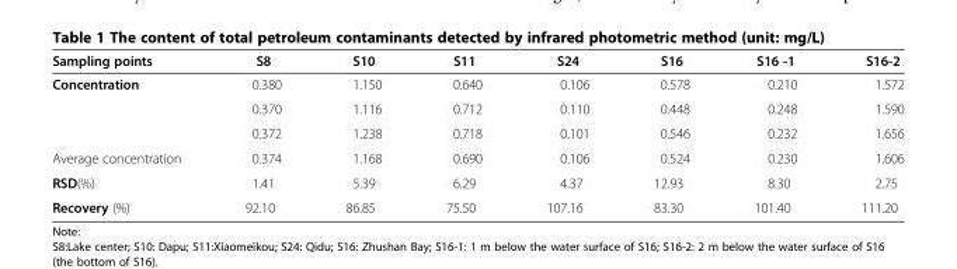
<table><thead><tr><td>Sampling points</td><td>S8</td><td>S10</td><td>S11</td><td>S24</td><td>S16</td><td>S16 -1</td><td>S16-2</td></tr></thead><tbody><tr><td rowspan="3">Concentration</td><td>0.380</td><td>1.150</td><td>0.640</td><td>0.106</td><td>0.578</td><td>0.210</td><td>1.572</td></tr><tr><td>0.370</td><td>1.116</td><td>0.712</td><td>0.110</td><td>0.448</td><td>0.248</td><td>1.590</td></tr><tr><td>0.372</td><td>1.238</td><td>0.718</td><td>0.101</td><td>0.546</td><td>0.232</td><td>1.656</td></tr><tr><td>Average concentration</td><td>0.374</td><td>1.168</td><td>0.690</td><td>0.106</td><td>0.524</td><td>0.230</td><td>1.606</td></tr><tr><td>RSD(%)</td><td>1.41</td><td>5.39</td><td>6.29</td><td>4.37</td><td>12.93</td><td>8.30</td><td>2.75</td></tr><tr><td>Recovery (%)</td><td>92.10</td><td>86.85</td><td>75.50</td><td>107.16</td><td>83.30</td><td>101.40</td><td>111.20</td></tr></tbody></table>